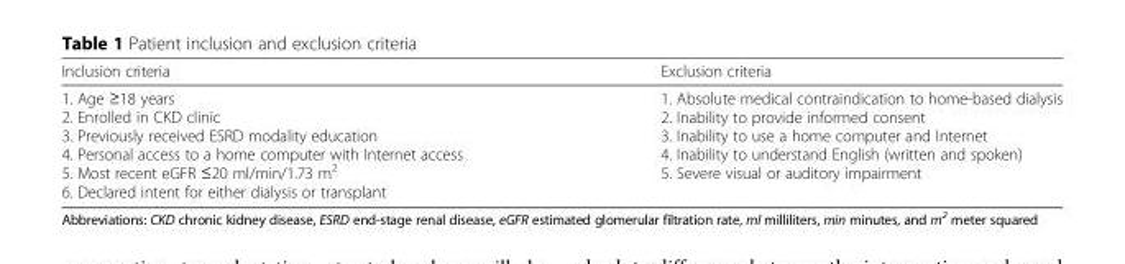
<table><thead><tr><td>Inclusion criteria</td><td>Exclusion criteria</td></tr></thead><tbody><tr><td>1. Age ≥18 years 2. Enrolled in CKD clinic 3. Previously received ESRD modality education 4. Personal access to a home computer with Internet access 5. Most recent eGFR ≤20 ml/min/1.73 m<sup>2</sup> 6. Declared intent for either dialysis or transplant</td><td>1. Absolute medical contraindication to home-based dialysis 2. Inability to provide informed consent 3. Inability to use a home computer and Internet 4. Inability to understand English (written and spoken) 5. Severe visual or auditory impairment</td></tr></tbody></table>